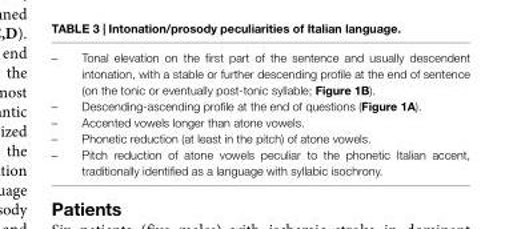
<table><tbody><tr><td>–</td><td>Tonal elevation on the first part of the sentence and usually descendent intonation, with a stable or further descending profile at the end of sentence (on the tonic or eventually post-tonic syllable; Figure 1B).</td></tr><tr><td>–</td><td>Descending-ascending profile at the end of questions (Figure 1A).</td></tr><tr><td>–</td><td>Accented vowels longer than atone vowels.</td></tr><tr><td>–</td><td>Phonetic reduction (at least in the pitch) of atone vowels.</td></tr><tr><td>–</td><td>Pitch reduction of atone vowels peculiar to the phonetic Italian accent, traditionally identified as a language with syllabic isochrony.</td></tr></tbody></table>